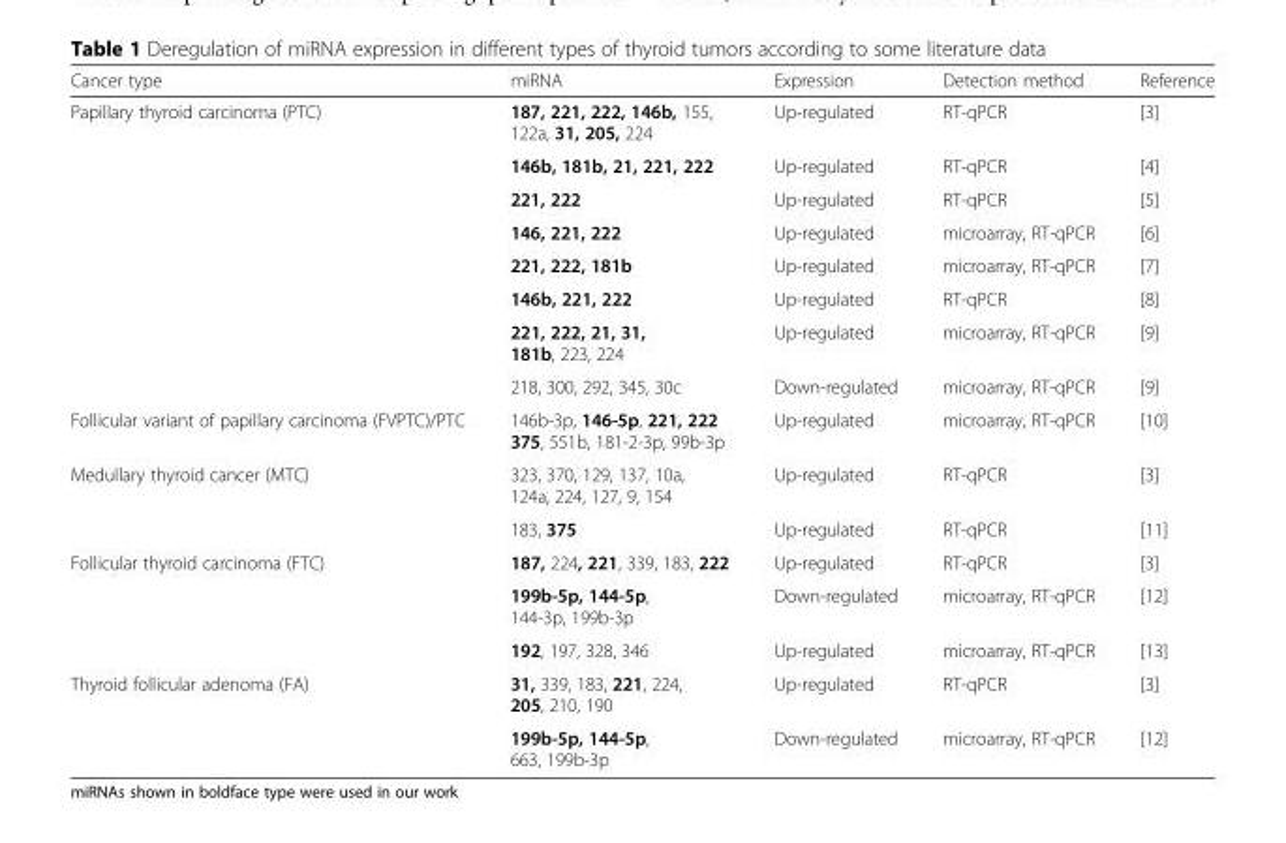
<table><thead><tr><td>Cancer type</td><td>miRNA</td><td>Expression</td><td>Detection method</td><td>Reference</td></tr></thead><tbody><tr><td rowspan="8">Papillary thyroid carcinoma (PTC)</td><td>187, 221, 222, 146b, 155, 122a, 31, 205, 224</td><td>Up-regulated</td><td>RT-qPCR</td><td>[3]</td></tr><tr><td>146b, 181b, 21, 221, 222</td><td>Up-regulated</td><td>RT-qPCR</td><td>[4]</td></tr><tr><td>221, 222</td><td>Up-regulated</td><td>RT-qPCR</td><td>[5]</td></tr><tr><td>146, 221, 222</td><td>Up-regulated</td><td>microarray, RT-qPCR</td><td>[6]</td></tr><tr><td>221, 222, 181b</td><td>Up-regulated</td><td>microarray, RT-qPCR</td><td>[7]</td></tr><tr><td>146b, 221, 222</td><td>Up-regulated</td><td>RT-qPCR</td><td>[8]</td></tr><tr><td>221, 222, 21, 31, 181b, 223, 224</td><td>Up-regulated</td><td>microarray, RT-qPCR</td><td>[9]</td></tr><tr><td>218, 300, 292, 345, 30c</td><td>Down-regulated</td><td>microarray, RT-qPCR</td><td>[9]</td></tr><tr><td>Follicular variant of papillary carcinoma (FVPTC)/PTC</td><td>146b-3p, 146-5p, 221, 222 375, 551b, 181-2-3p, 99b-3p</td><td>Up-regulated</td><td>microarray, RT-qPCR</td><td>[10]</td></tr><tr><td rowspan="2">Medullary thyroid cancer (MTC)</td><td>323, 370, 129, 137, 10a, 124a, 224, 127, 9, 154</td><td>Up-regulated</td><td>RT-qPCR</td><td>[3]</td></tr><tr><td>183, 375</td><td>Up-regulated</td><td>RT-qPCR</td><td>[11]</td></tr><tr><td rowspan="3">Follicular thyroid carcinoma (FTC)</td><td>187, 224, 221, 339, 183, 222</td><td>Up-regulated</td><td>RT-qPCR</td><td>[3]</td></tr><tr><td>199b-5p, 144-5p, 144-3p, 199b-3p</td><td>Down-regulated</td><td>microarray, RT-qPCR</td><td>[12]</td></tr><tr><td>192, 197, 328, 346</td><td>Up-regulated</td><td>microarray, RT-qPCR</td><td>[13]</td></tr><tr><td rowspan="2">Thyroid follicular adenoma (FA)</td><td>31, 339, 183, 221, 224, 205, 210, 190</td><td>Up-regulated</td><td>RT-qPCR</td><td>[3]</td></tr><tr><td>199b-5p, 144-5p, 663, 199b-3p</td><td>Down-regulated</td><td>microarray, RT-qPCR</td><td>[12]</td></tr></tbody></table>